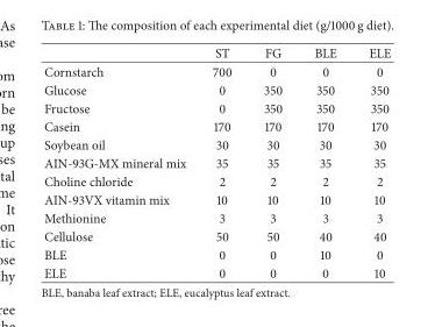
<table><thead><tr><td></td><td>ST</td><td>FG</td><td>BLE</td><td>ELE</td></tr></thead><tbody><tr><td>Cornstarch</td><td>700</td><td>0</td><td>0</td><td>0</td></tr><tr><td>Glucose</td><td>0</td><td>350</td><td>350</td><td>350</td></tr><tr><td>Fructose</td><td>0</td><td>350</td><td>350</td><td>350</td></tr><tr><td>Casein</td><td>170</td><td>170</td><td>170</td><td>170</td></tr><tr><td>Soybean oil</td><td>30</td><td>30</td><td>30</td><td>30</td></tr><tr><td>AIN-93G-MX mineral mix</td><td>35</td><td>35</td><td>35</td><td>35</td></tr><tr><td>Choline chloride</td><td>2</td><td>2</td><td>2</td><td>2</td></tr><tr><td>AIN-93VX vitamin mix</td><td>10</td><td>10</td><td>10</td><td>10</td></tr><tr><td>Methionine</td><td>3</td><td>3</td><td>3</td><td>3</td></tr><tr><td>Cellulose</td><td>50</td><td>50</td><td>40</td><td>40</td></tr><tr><td>BLE</td><td>0</td><td>0</td><td>10</td><td>0</td></tr><tr><td>ELE</td><td>0</td><td>0</td><td>0</td><td>10</td></tr></tbody></table>